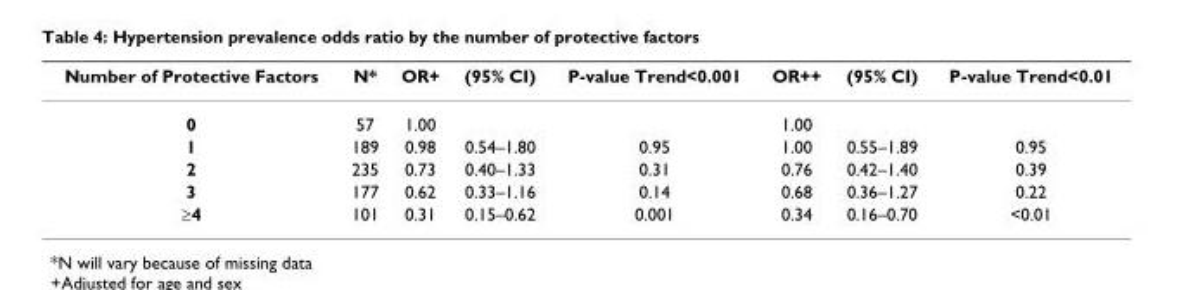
<table><thead><tr><td>Number of Protective Factors</td><td>N*</td><td>OR+</td><td>(95% CI)</td><td>P-value Trend&lt;0.001</td><td>OR++</td><td>(95% CI)</td><td>P-value Trend&lt;0.01</td></tr></thead><tbody><tr><td>0</td><td>57</td><td>1.00</td><td></td><td></td><td>1.00</td><td></td><td></td></tr><tr><td>1</td><td>189</td><td>0.98</td><td>0.54–1.80</td><td>0.95</td><td>1.00</td><td>0.55–1.89</td><td>0.95</td></tr><tr><td>2</td><td>235</td><td>0.73</td><td>0.40–1.33</td><td>0.31</td><td>0.76</td><td>0.42–1.40</td><td>0.39</td></tr><tr><td>3</td><td>177</td><td>0.62</td><td>0.33–1.16</td><td>0.14</td><td>0.68</td><td>0.36–1.27</td><td>0.22</td></tr><tr><td>≥4</td><td>101</td><td>0.31</td><td>0.15–0.62</td><td>0.001</td><td>0.34</td><td>0.16–0.70</td><td>&lt;0.01</td></tr></tbody></table>